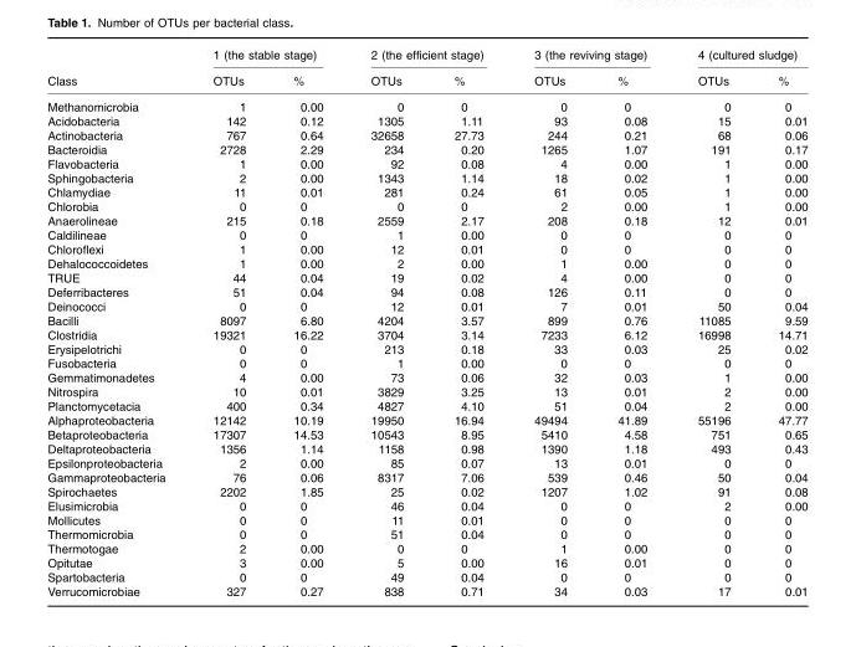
<table><thead><tr><td rowspan="2">Class</td><td colspan="2">1 (the stable stage)</td><td colspan="2">2 (the efficient stage)</td><td colspan="2">3 (the reviving stage)</td><td colspan="2">4 (cultured sludge)</td></tr><tr><td>OTUs</td><td>%</td><td>OTUs</td><td>%</td><td>OTUs</td><td>%</td><td>OTUs</td><td>%</td></tr></thead><tbody><tr><td>Methanomicrobia</td><td>1</td><td>0.00</td><td>0</td><td>0</td><td>0</td><td>0</td><td>0</td><td>0</td></tr><tr><td>Acidobacteria</td><td>142</td><td>0.12</td><td>1305</td><td>1.11</td><td>93</td><td>0.08</td><td>15</td><td>0.01</td></tr><tr><td>Actinobacteria</td><td>767</td><td>0.64</td><td>32658</td><td>27.73</td><td>244</td><td>0.21</td><td>68</td><td>0.06</td></tr><tr><td>Bacteroidia</td><td>2728</td><td>2.29</td><td>234</td><td>0.20</td><td>1265</td><td>1.07</td><td>191</td><td>0.17</td></tr><tr><td>Flavobacteria</td><td>1</td><td>0.00</td><td>92</td><td>0.08</td><td>4</td><td>0.00</td><td>1</td><td>0.00</td></tr><tr><td>Sphingobacteria</td><td>2</td><td>0.00</td><td>1343</td><td>1.14</td><td>18</td><td>0.02</td><td>1</td><td>0.00</td></tr><tr><td>Chlamydiae</td><td>11</td><td>0.01</td><td>281</td><td>0.24</td><td>61</td><td>0.05</td><td>1</td><td>0.00</td></tr><tr><td>Chlorobia</td><td>0</td><td>0</td><td>0</td><td>0</td><td>2</td><td>0.00</td><td>1</td><td>0.00</td></tr><tr><td>Anaerolineae</td><td>215</td><td>0.18</td><td>2559</td><td>2.17</td><td>208</td><td>0.18</td><td>12</td><td>0.01</td></tr><tr><td>Caldilineae</td><td>0</td><td>0</td><td>1</td><td>0.00</td><td>0</td><td>0</td><td>0</td><td>0</td></tr><tr><td>Chloroflexi</td><td>1</td><td>0.00</td><td>12</td><td>0.01</td><td>0</td><td>0</td><td>0</td><td>0</td></tr><tr><td>Dehalococcoidetes</td><td>1</td><td>0.00</td><td>2</td><td>0.00</td><td>1</td><td>0.00</td><td>0</td><td>0</td></tr><tr><td>TRUE</td><td>44</td><td>0.04</td><td>19</td><td>0.02</td><td>4</td><td>0.00</td><td>0</td><td>0</td></tr><tr><td>Deferribacteres</td><td>51</td><td>0.04</td><td>94</td><td>0.08</td><td>126</td><td>0.11</td><td>0</td><td>0</td></tr><tr><td>Deinococci</td><td>0</td><td>0</td><td>12</td><td>0.01</td><td>7</td><td>0.01</td><td>50</td><td>0.04</td></tr><tr><td>Bacilli</td><td>8097</td><td>6.80</td><td>4204</td><td>3.57</td><td>899</td><td>0.76</td><td>11085</td><td>9.59</td></tr><tr><td>Clostridia</td><td>19321</td><td>16.22</td><td>3704</td><td>3.14</td><td>7233</td><td>6.12</td><td>16998</td><td>14.71</td></tr><tr><td>Erysipelotrichi</td><td>0</td><td>0</td><td>213</td><td>0.18</td><td>33</td><td>0.03</td><td>25</td><td>0.02</td></tr><tr><td>Fusobacteria</td><td>0</td><td>0</td><td>1</td><td>0.00</td><td>0</td><td>0</td><td>0</td><td>0</td></tr><tr><td>Gemmatimonadetes</td><td>4</td><td>0.00</td><td>73</td><td>0.06</td><td>32</td><td>0.03</td><td>1</td><td>0.00</td></tr><tr><td>Nitrospira</td><td>10</td><td>0.01</td><td>3829</td><td>3.25</td><td>13</td><td>0.01</td><td>2</td><td>0.00</td></tr><tr><td>Planctomycetacia</td><td>400</td><td>0.34</td><td>4827</td><td>4.10</td><td>51</td><td>0.04</td><td>2</td><td>0.00</td></tr><tr><td>Alphaproteobacteria</td><td>12142</td><td>10.19</td><td>19950</td><td>16.94</td><td>49494</td><td>41.89</td><td>55196</td><td>47.77</td></tr><tr><td>Betaproteobacteria</td><td>17307</td><td>14.53</td><td>10543</td><td>8.95</td><td>5410</td><td>4.58</td><td>751</td><td>0.65</td></tr><tr><td>Deltaproteobacteria</td><td>1356</td><td>1.14</td><td>1158</td><td>0.98</td><td>1390</td><td>1.18</td><td>493</td><td>0.43</td></tr><tr><td>Epsilonproteobacteria</td><td>2</td><td>0.00</td><td>85</td><td>0.07</td><td>13</td><td>0.01</td><td>0</td><td>0</td></tr><tr><td>Gammaproteobacteria</td><td>76</td><td>0.06</td><td>8317</td><td>7.06</td><td>539</td><td>0.46</td><td>50</td><td>0.04</td></tr><tr><td>Spirochaetes</td><td>2202</td><td>1.85</td><td>25</td><td>0.02</td><td>1207</td><td>1.02</td><td>91</td><td>0.08</td></tr><tr><td>Elusimicrobia</td><td>0</td><td>0</td><td>46</td><td>0.04</td><td>0</td><td>0</td><td>2</td><td>0.00</td></tr><tr><td>Mollicutes</td><td>0</td><td>0</td><td>11</td><td>0.01</td><td>0</td><td>0</td><td>0</td><td>0</td></tr><tr><td>Thermomicrobia</td><td>0</td><td>0</td><td>51</td><td>0.04</td><td>0</td><td>0</td><td>0</td><td>0</td></tr><tr><td>Thermotogae</td><td>2</td><td>0.00</td><td>0</td><td>0</td><td>1</td><td>0.00</td><td>0</td><td>0</td></tr><tr><td>Opitutae</td><td>3</td><td>0.00</td><td>5</td><td>0.00</td><td>16</td><td>0.01</td><td>0</td><td>0</td></tr><tr><td>Spartobacteria</td><td>0</td><td>0</td><td>49</td><td>0.04</td><td>0</td><td>0</td><td>0</td><td>0</td></tr><tr><td>Verrucomicrobiae</td><td>327</td><td>0.27</td><td>838</td><td>0.71</td><td>34</td><td>0.03</td><td>17</td><td>0.01</td></tr></tbody></table>